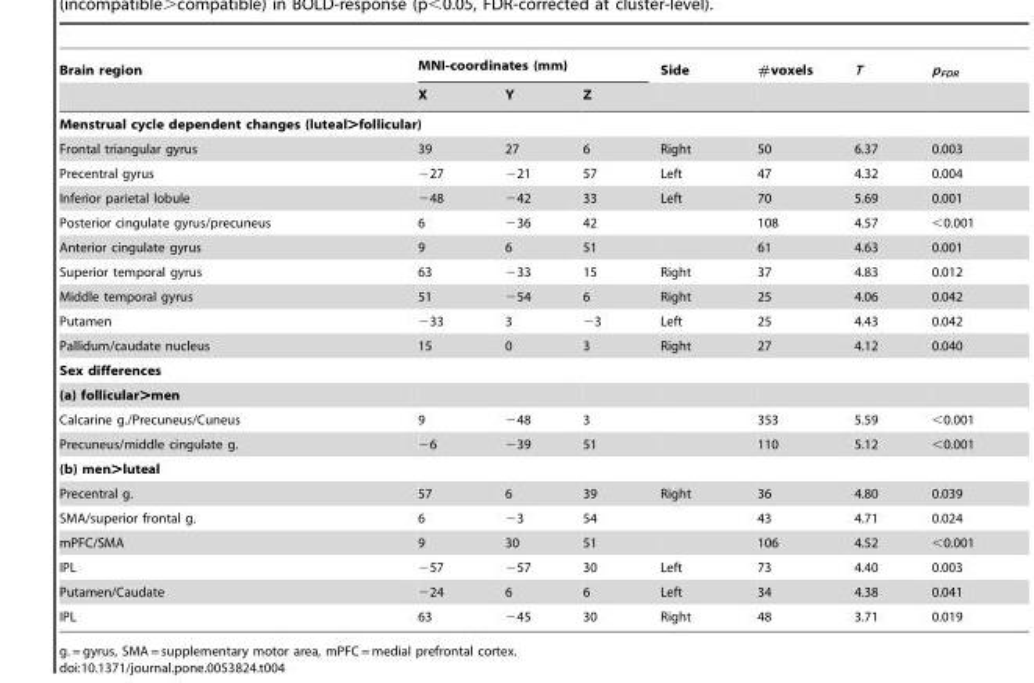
<table><thead><tr><td rowspan="2">Brain region</td><td colspan="3">MNI-coordinates (mm)</td><td rowspan="2">Side</td><td rowspan="2">#voxels</td><td rowspan="2">T</td><td rowspan="2">p<sub>FDR</sub></td></tr><tr><td>X</td><td>Y</td><td>Z</td></tr></thead><tbody><tr><td colspan="8">Menstrual cycle dependent changes (luteal&gt;follicular)</td></tr><tr><td>Frontal triangular gyrus</td><td>39</td><td>27</td><td>6</td><td>Right</td><td>50</td><td>6.37</td><td>0.003</td></tr><tr><td>Precentral gyrus</td><td>−27</td><td>−21</td><td>57</td><td>Left</td><td>47</td><td>4.32</td><td>0.004</td></tr><tr><td>Inferior parietal lobule</td><td>−48</td><td>−42</td><td>33</td><td>Left</td><td>70</td><td>5.69</td><td>0.001</td></tr><tr><td>Posterior cingulate gyrus/precuneus</td><td>6</td><td>−36</td><td>42</td><td></td><td>108</td><td>4.57</td><td>&lt;0.001</td></tr><tr><td>Anterior cingulate gyrus</td><td>9</td><td>6</td><td>51</td><td></td><td>61</td><td>4.63</td><td>0.001</td></tr><tr><td>Superior temporal gyrus</td><td>63</td><td>−33</td><td>15</td><td>Right</td><td>37</td><td>4.83</td><td>0.012</td></tr><tr><td>Middle temporal gyrus</td><td>51</td><td>−54</td><td>6</td><td>Right</td><td>25</td><td>4.06</td><td>0.042</td></tr><tr><td>Putamen</td><td>−33</td><td>3</td><td>−3</td><td>Left</td><td>25</td><td>4.43</td><td>0.042</td></tr><tr><td>Pallidum/caudate nucleus</td><td>15</td><td>0</td><td>3</td><td>Right</td><td>27</td><td>4.12</td><td>0.040</td></tr><tr><td colspan="8">Sex differences</td></tr><tr><td colspan="8">(a) follicular&gt;men</td></tr><tr><td>Calcarine g./Precuneus/Cuneus</td><td>9</td><td>−48</td><td>3</td><td></td><td>353</td><td>5.59</td><td>&lt;0.001</td></tr><tr><td>Precuneus/middle cingulate g.</td><td>−6</td><td>−39</td><td>51</td><td></td><td>110</td><td>5.12</td><td>&lt;0.001</td></tr><tr><td colspan="8">(b) men&gt;luteal</td></tr><tr><td>Precentral g.</td><td>57</td><td>6</td><td>39</td><td>Right</td><td>36</td><td>4.80</td><td>0.039</td></tr><tr><td>SMA/superior frontal g.</td><td>6</td><td>−3</td><td>54</td><td></td><td>43</td><td>4.71</td><td>0.024</td></tr><tr><td>mPFC/SMA</td><td>9</td><td>30</td><td>51</td><td></td><td>106</td><td>4.52</td><td>&lt;0.001</td></tr><tr><td>IPL</td><td>−57</td><td>−57</td><td>30</td><td>Left</td><td>73</td><td>4.40</td><td>0.003</td></tr><tr><td>Putamen/Caudate</td><td>−24</td><td>6</td><td>6</td><td>Left</td><td>34</td><td>4.38</td><td>0.041</td></tr><tr><td>IPL</td><td>63</td><td>−45</td><td>30</td><td>Right</td><td>48</td><td>3.71</td><td>0.019</td></tr></tbody></table>